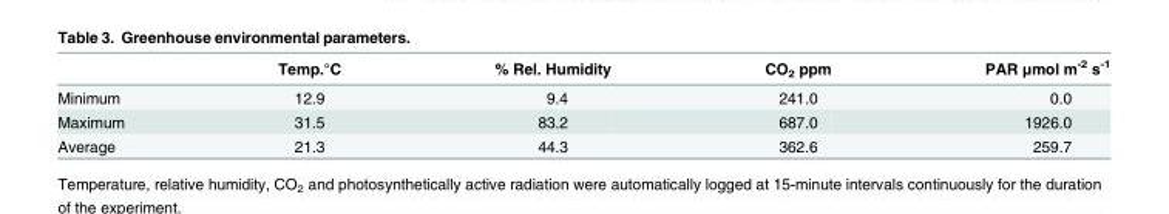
<table><thead><tr><td></td><td>Temp.°C</td><td>% Rel. Humidity</td><td>CO<sub>2</sub> ppm</td><td>PAR μmol m<sup>-2</sup> s<sup>-1</sup></td></tr></thead><tbody><tr><td>Minimum</td><td>12.9</td><td>9.4</td><td>241.0</td><td>0.0</td></tr><tr><td>Maximum</td><td>31.5</td><td>83.2</td><td>687.0</td><td>1926.0</td></tr><tr><td>Average</td><td>21.3</td><td>44.3</td><td>362.6</td><td>259.7</td></tr></tbody></table>